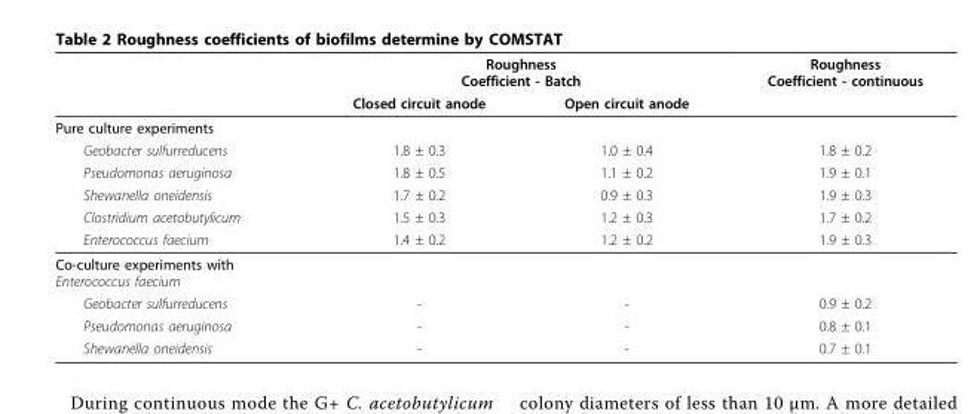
<table><thead><tr><td rowspan="2"></td><td colspan="2">Roughness Coefficient - Batch</td><td rowspan="2">Roughness Coefficient - continuous</td></tr><tr><td>Closed circuit anode</td><td>Open circuit anode</td></tr><tr><td colspan="4">Pure culture experiments</td></tr></thead><tbody><tr><td>Geobacter sulfurreducens</td><td>1.8 ± 0.3</td><td>1.0 ± 0.4</td><td>1.8 ± 0.2</td></tr><tr><td>Pseudomonas aeruginosa</td><td>1.8 ± 0.5</td><td>1.1 ± 0.2</td><td>1.9 ± 0.1</td></tr><tr><td>Shewanella oneidensis</td><td>1.7 ± 0.2</td><td>0.9 ± 0.3</td><td>1.9 ± 0.3</td></tr><tr><td>Clostridium acetobutylicum</td><td>1.5 ± 0.3</td><td>1.2 ± 0.3</td><td>1.7 ± 0.2</td></tr><tr><td>Enterococcus faecium</td><td>1.4 ± 0.2</td><td>1.2 ± 0.2</td><td>1.9 ± 0.3</td></tr><tr><td colspan="4">Co-culture experiments with Enterococcus faecium</td></tr><tr><td>Geobacter sulfurreducens</td><td>-</td><td>-</td><td>0.9 ± 0.2</td></tr><tr><td>Pseudomonas aeruginosa</td><td>-</td><td>-</td><td>0.8 ± 0.1</td></tr><tr><td>Shewanella oneidensis</td><td>-</td><td>-</td><td>0.7 ± 0.1</td></tr></tbody></table>